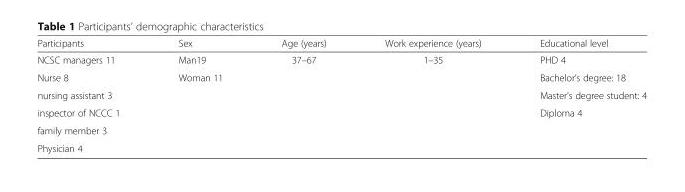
<table><thead><tr><td>Participants</td><td>Sex</td><td>Age (years)</td><td>Work experience (years)</td><td>Educational level</td></tr></thead><tbody><tr><td>NCSC managers 11</td><td>Man19</td><td>37–67</td><td>1–35</td><td>PHD 4</td></tr><tr><td>Nurse 8</td><td>Woman 11</td><td></td><td></td><td>Bachelor’s degree: 18</td></tr><tr><td>nursing assistant 3</td><td></td><td></td><td></td><td>Master’s degree student: 4</td></tr><tr><td>inspector of NCCC 1</td><td></td><td></td><td></td><td>Diploma 4</td></tr><tr><td colspan="5">family member 3</td></tr><tr><td>Physician 4</td><td></td><td></td><td></td><td></td></tr></tbody></table>